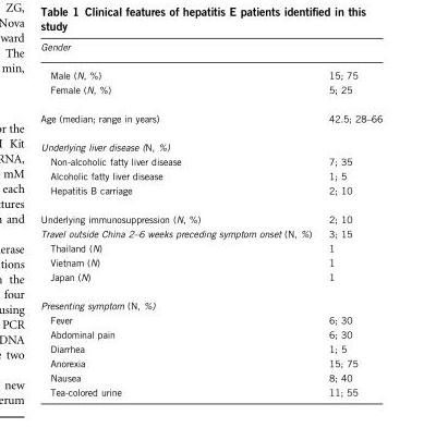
<table><tbody><tr><td colspan="2">Gender</td></tr><tr><td>Male (N, %)</td><td>15; 75</td></tr><tr><td>Female (N, %)</td><td>5; 25</td></tr><tr><td>Age (median; range in years)</td><td>42.5; 28–66</td></tr><tr><td colspan="2">Underlying liver disease (N, %)</td></tr><tr><td>Non-alcoholic fatty liver disease</td><td>7; 35</td></tr><tr><td>Alcoholic fatty liver disease</td><td>1; 5</td></tr><tr><td>Hepatitis B carriage</td><td>2; 10</td></tr><tr><td>Underlying immunosuppression (N, %)</td><td>2; 10</td></tr><tr><td>Travel outside China 2–6 weeks preceding symptom onset (N, %)</td><td>3; 15</td></tr><tr><td>Thailand (N)</td><td>1</td></tr><tr><td>Vietnam (N)</td><td>1</td></tr><tr><td>Japan (N)</td><td>1</td></tr><tr><td colspan="2">Presenting symptom (N, %)</td></tr><tr><td>Fever</td><td>6; 30</td></tr><tr><td>Abdominal pain</td><td>6; 30</td></tr><tr><td>Diarrhea</td><td>1; 5</td></tr><tr><td>Anorexia</td><td>15; 75</td></tr><tr><td>Nausea</td><td>8; 40</td></tr><tr><td>Tea-colored urine</td><td>11; 55</td></tr></tbody></table>